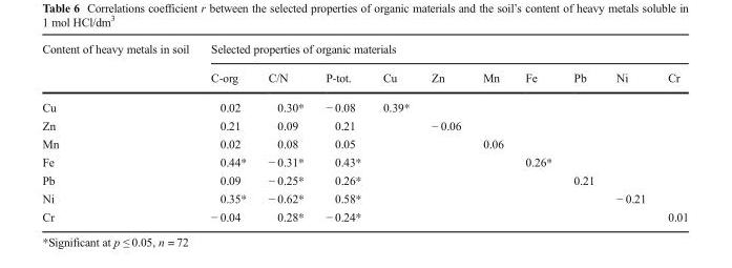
<table><thead><tr><td rowspan="2">Content of heavy metals in soil</td><td colspan="10">Selected properties of organic materials</td></tr><tr><td>C-org</td><td>C/N</td><td>P-tot.</td><td>Cu</td><td>Zn</td><td>Mn</td><td>Fe</td><td>Pb</td><td>Ni</td><td>Cr</td></tr></thead><tbody><tr><td>Cu</td><td>0.02</td><td>0.30*</td><td>− 0.08</td><td>0.39*</td><td></td><td></td><td></td><td></td><td></td><td></td></tr><tr><td>Zn</td><td>0.21</td><td>0.09</td><td>0.21</td><td></td><td>− 0.06</td><td></td><td></td><td></td><td></td><td></td></tr><tr><td>Mn</td><td>0.02</td><td>0.08</td><td>0.05</td><td></td><td></td><td>0.06</td><td></td><td></td><td></td><td></td></tr><tr><td>Fe</td><td>0.44*</td><td>− 0.31*</td><td>0.43*</td><td></td><td></td><td></td><td>0.26*</td><td></td><td></td><td></td></tr><tr><td>Pb</td><td>0.09</td><td>− 0.25*</td><td>0.26*</td><td></td><td></td><td></td><td></td><td>0.21</td><td></td><td></td></tr><tr><td>Ni</td><td>0.35*</td><td>− 0.62*</td><td>0.58*</td><td></td><td></td><td></td><td></td><td></td><td>− 0.21</td><td></td></tr><tr><td>Cr</td><td>− 0.04</td><td>0.28*</td><td>− 0.24*</td><td></td><td></td><td></td><td></td><td></td><td></td><td>0.01</td></tr></tbody></table>